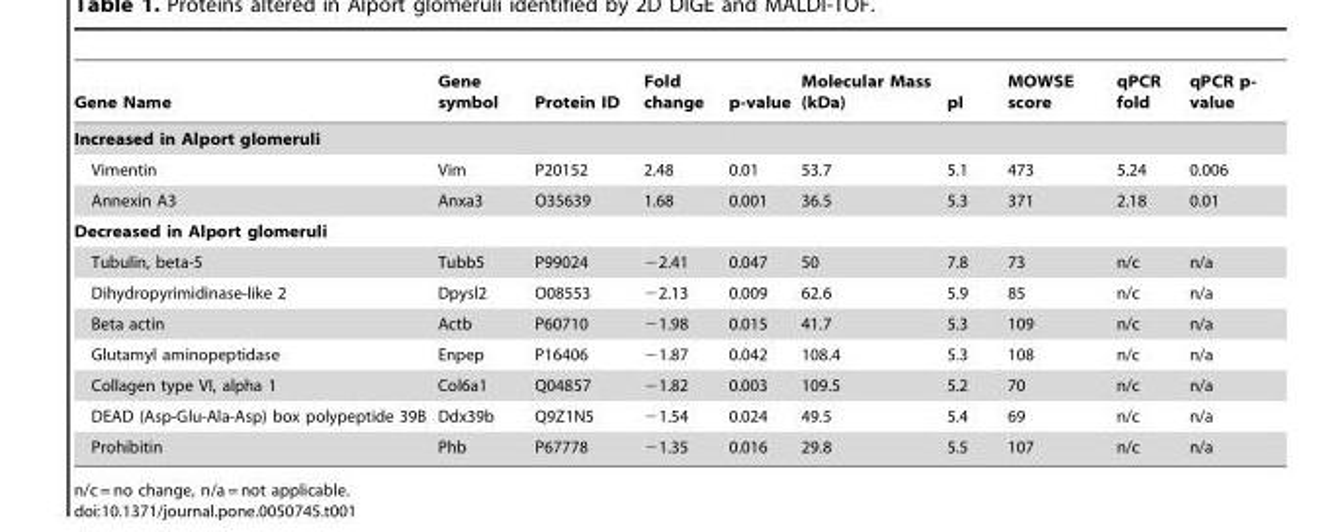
<table><thead><tr><td>Gene Name</td><td>Gene symbol</td><td>Protein ID</td><td>Fold change</td><td>p-value</td><td>Molecular Mass (kDa)</td><td>pI</td><td>MOWSE score</td><td>qPCR fold</td><td>qPCR p- value</td></tr></thead><tbody><tr><td colspan="10">Increased in Alport glomeruli</td></tr><tr><td>Vimentin</td><td>Vim</td><td>P20152</td><td>2.48</td><td>0.01</td><td>53.7</td><td>5.1</td><td>473</td><td>5.24</td><td>0.006</td></tr><tr><td>Annexin A3</td><td>Anxa3</td><td>O35639</td><td>1.68</td><td>0.001</td><td>36.5</td><td>5.3</td><td>371</td><td>2.18</td><td>0.01</td></tr><tr><td colspan="10">Decreased in Alport glomeruli</td></tr><tr><td>Tubulin, beta-5</td><td>Tubb5</td><td>P99024</td><td>−2.41</td><td>0.047</td><td>50</td><td>7.8</td><td>73</td><td>n/c</td><td>n/a</td></tr><tr><td>Dihydropyrimidinase-like 2</td><td>Dpysl2</td><td>O08553</td><td>−2.13</td><td>0.009</td><td>62.6</td><td>5.9</td><td>85</td><td>n/c</td><td>n/a</td></tr><tr><td>Beta actin</td><td>Actb</td><td>P60710</td><td>−1.98</td><td>0.015</td><td>41.7</td><td>5.3</td><td>109</td><td>n/c</td><td>n/a</td></tr><tr><td>Glutamyl aminopeptidase</td><td>Enpep</td><td>P16406</td><td>−1.87</td><td>0.042</td><td>108.4</td><td>5.3</td><td>108</td><td>n/c</td><td>n/a</td></tr><tr><td>Collagen type VI, alpha 1</td><td>Col6a1</td><td>Q04857</td><td>−1.82</td><td>0.003</td><td>109.5</td><td>5.2</td><td>70</td><td>n/c</td><td>n/a</td></tr><tr><td>DEAD (Asp-Glu-Ala-Asp) box polypeptide 39B</td><td>Ddx39b</td><td>Q9Z1N5</td><td>−1.54</td><td>0.024</td><td>49.5</td><td>5.4</td><td>69</td><td>n/c</td><td>n/a</td></tr><tr><td>Prohibitin</td><td>Phb</td><td>P67778</td><td>−1.35</td><td>0.016</td><td>29.8</td><td>5.5</td><td>107</td><td>n/c</td><td>n/a</td></tr></tbody></table>